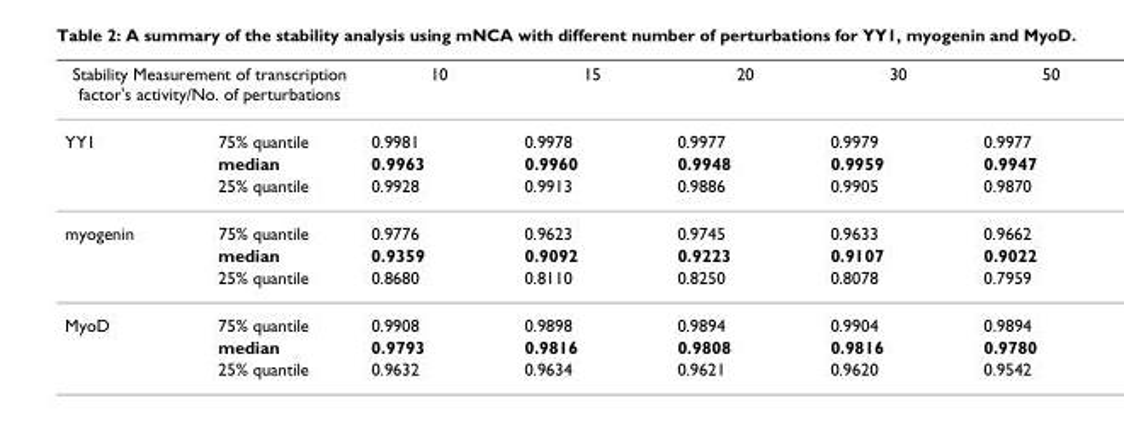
<table><thead><tr><td colspan="2">Stability Measurement of transcription factor&#x27;s activity/No. of perturbations</td><td rowspan="2">10 0.9981</td><td rowspan="2">15 0.9978</td><td rowspan="2">20 0.9977</td><td rowspan="2">30 0.9979</td><td rowspan="2">50 0.9977</td></tr><tr><td>YY1</td><td>75% quantile</td></tr></thead><tbody><tr><td></td><td>median</td><td>0.9963</td><td>0.9960</td><td>0.9948</td><td>0.9959</td><td>0.9947</td></tr><tr><td></td><td>25% quantile</td><td>0.9928</td><td>0.9913</td><td>0.9886</td><td>0.9905</td><td>0.9870</td></tr><tr><td rowspan="3">myogenin</td><td>75% quantile</td><td>0.9776</td><td>0.9623</td><td>0.9745</td><td>0.9633</td><td>0.9662</td></tr><tr><td>median</td><td>0.9359</td><td>0.9092</td><td>0.9223</td><td>0.9107</td><td>0.9022</td></tr><tr><td>25% quantile</td><td>0.8680</td><td>0.8110</td><td>0.8250</td><td>0.8078</td><td>0.7959</td></tr><tr><td rowspan="3">MyoD</td><td>75% quantile</td><td>0.9908</td><td>0.9898</td><td>0.9894</td><td>0.9904</td><td>0.9894</td></tr><tr><td>median</td><td>0.9793</td><td>0.9816</td><td>0.9808</td><td>0.9816</td><td>0.9780</td></tr><tr><td>25% quantile</td><td>0.9632</td><td>0.9634</td><td>0.9621</td><td>0.9620</td><td>0.9542</td></tr></tbody></table>